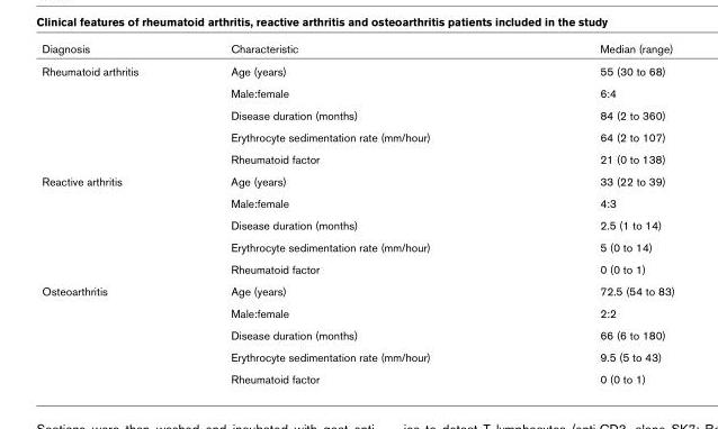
<table><thead><tr><td>Diagnosis</td><td>Characteristic</td><td>Median (range)</td></tr></thead><tbody><tr><td rowspan="5">Rheumatoid arthritis</td><td>Age (years)</td><td>55 (30 to 68)</td></tr><tr><td>Male:female</td><td>6:4</td></tr><tr><td>Disease duration (months)</td><td>84 (2 to 360)</td></tr><tr><td>Erythrocyte sedimentation rate (mm/hour)</td><td>64 (2 to 107)</td></tr><tr><td>Rheumatoid factor</td><td>21 (0 to 138)</td></tr><tr><td rowspan="5">Reactive arthritis</td><td>Age (years)</td><td>33 (22 to 39)</td></tr><tr><td>Male:female</td><td>4:3</td></tr><tr><td>Disease duration (months)</td><td>2.5 (1 to 14)</td></tr><tr><td>Erythrocyte sedimentation rate (mm/hour)</td><td>5 (0 to 14)</td></tr><tr><td>Rheumatoid factor</td><td>0 (0 to 1)</td></tr><tr><td rowspan="5">Osteoarthritis</td><td>Age (years)</td><td>72.5 (54 to 83)</td></tr><tr><td>Male:female</td><td>2:2</td></tr><tr><td>Disease duration (months)</td><td>66 (6 to 180)</td></tr><tr><td>Erythrocyte sedimentation rate (mm/hour)</td><td>9.5 (5 to 43)</td></tr><tr><td>Rheumatoid factor</td><td>0 (0 to 1)</td></tr></tbody></table>